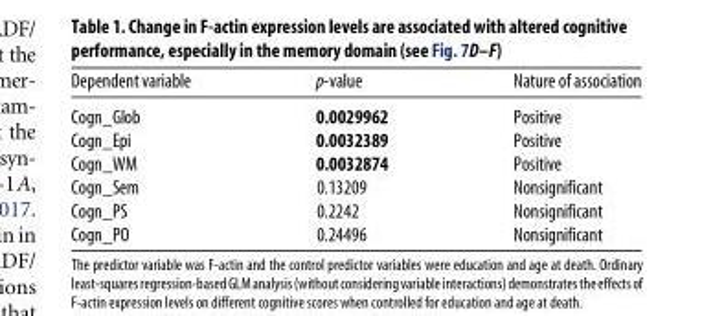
<table><thead><tr><td>Dependent variable</td><td>p-value</td><td>Nature of association</td></tr></thead><tbody><tr><td>Cogn_Glob</td><td>0.0029962</td><td>Positive</td></tr><tr><td>Cogn_Epi</td><td>0.0032389</td><td>Positive</td></tr><tr><td>Cogn_WM</td><td>0.0032874</td><td>Positive</td></tr><tr><td>Cogn_Sem</td><td>0.13209</td><td>Nonsignificant</td></tr><tr><td>Cogn_PS</td><td>0.2242</td><td>Nonsignificant</td></tr><tr><td>Cogn_PO</td><td>0.24496</td><td>Nonsignificant</td></tr></tbody></table>